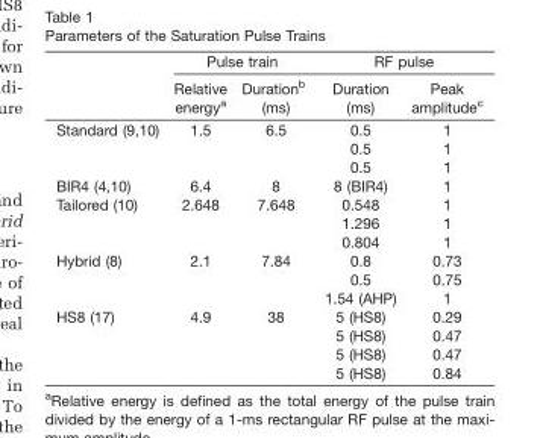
<table><thead><tr><td rowspan="2"></td><td colspan="2">Pulse train</td><td colspan="2">RF pulse</td></tr><tr><td>Relative energy<sup>a</sup></td><td>Duration<sup>b</sup> (ms)</td><td>Duration (ms)</td><td>Peak amplitude<sup>c</sup></td></tr></thead><tbody><tr><td rowspan="3">Standard (9,10)</td><td>1.5</td><td>6.5</td><td>0.5</td><td>1</td></tr><tr><td></td><td></td><td>0.5</td><td>1</td></tr><tr><td></td><td></td><td>0.5</td><td>1</td></tr><tr><td>BIR4 (4,10)</td><td>6.4</td><td>8</td><td>8 (BIR4)</td><td>1</td></tr><tr><td rowspan="3">Tailored (10)</td><td>2.648</td><td>7.648</td><td>0.548</td><td>1</td></tr><tr><td></td><td></td><td>1.296</td><td>1</td></tr><tr><td></td><td></td><td>0.804</td><td>1</td></tr><tr><td rowspan="3">Hybrid (8)</td><td>2.1</td><td>7.84</td><td>0.8</td><td>0.73</td></tr><tr><td></td><td></td><td>0.5</td><td>0.75</td></tr><tr><td></td><td></td><td>1.54 (AHP)</td><td>1</td></tr><tr><td rowspan="4">HS8 (17)</td><td>4.9</td><td>38</td><td>5 (HS8)</td><td>0.29</td></tr><tr><td></td><td></td><td>5 (HS8)</td><td>0.47</td></tr><tr><td></td><td></td><td>5 (HS8)</td><td>0.47</td></tr><tr><td></td><td></td><td>5 (HS8)</td><td>0.84</td></tr></tbody></table>